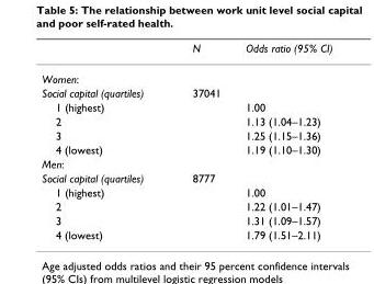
<table><thead><tr><td></td><td>N</td><td>Odds ratio (95% CI)</td></tr></thead><tbody><tr><td colspan="3">Women:</td></tr><tr><td>Social capital (quartiles)</td><td>37041</td><td></td></tr><tr><td>1 (highest)</td><td></td><td>1.00</td></tr><tr><td>2</td><td></td><td>1.13 (1.04–1.23)</td></tr><tr><td>3</td><td></td><td>1.25 (1.15–1.36)</td></tr><tr><td>4 (lowest)</td><td></td><td>1.19 (1.10–1.30)</td></tr><tr><td colspan="3">Men:</td></tr><tr><td>Social capital (quartiles)</td><td>8777</td><td></td></tr><tr><td>1 (highest)</td><td></td><td>1.00</td></tr><tr><td>2</td><td></td><td>1.22 (1.01–1.47)</td></tr><tr><td>3</td><td></td><td>1.31 (1.09–1.57)</td></tr><tr><td>4 (lowest)</td><td></td><td>1.79 (1.51–2.11)</td></tr></tbody></table>